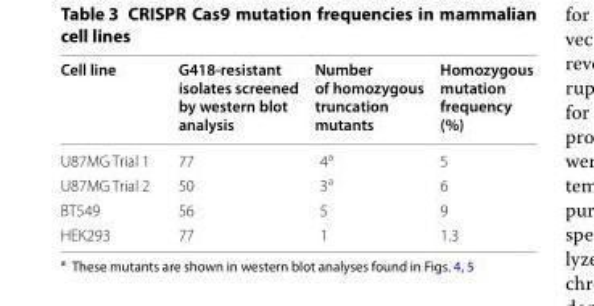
<table><thead><tr><td>Cell line</td><td>G418-resistant isolates screened by western blot analysis</td><td>Number of homozygous truncation mutants</td><td>Homozygous mutation frequency (%)</td></tr></thead><tbody><tr><td>U87MG Trial 1</td><td>77</td><td>4<sup>a</sup></td><td>5</td></tr><tr><td>U87MG Trial 2</td><td>50</td><td>3<sup>a</sup></td><td>6</td></tr><tr><td>BT549</td><td>56</td><td>5</td><td>9</td></tr><tr><td>HEK293</td><td>77</td><td>1</td><td>1.3</td></tr></tbody></table>